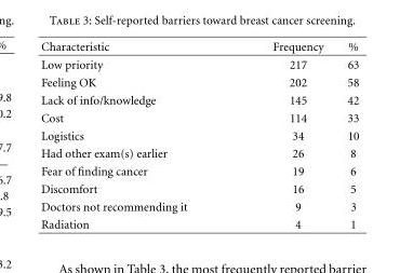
<table><thead><tr><td>Characteristic</td><td>Frequency</td><td>%</td></tr></thead><tbody><tr><td>Low priority</td><td>217</td><td>63</td></tr><tr><td>Feeling OK</td><td>202</td><td>58</td></tr><tr><td>Lack of info/knowledge</td><td>145</td><td>42</td></tr><tr><td>Cost</td><td>114</td><td>33</td></tr><tr><td>Logistics</td><td>34</td><td>10</td></tr><tr><td>Had other exam(s) earlier</td><td>26</td><td>8</td></tr><tr><td>Fear of finding cancer</td><td>19</td><td>6</td></tr><tr><td>Discomfort</td><td>16</td><td>5</td></tr><tr><td>Doctors not recommending it</td><td>9</td><td>3</td></tr><tr><td>Radiation</td><td>4</td><td>1</td></tr></tbody></table>